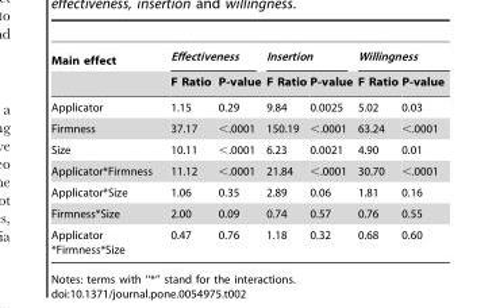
<table><thead><tr><td rowspan="2">Main effect</td><td colspan="2">Effectiveness</td><td colspan="2">Insertion</td><td colspan="2">Willingness</td></tr><tr><td>F Ratio</td><td>P-value</td><td>F Ratio</td><td>P-value</td><td>F Ratio</td><td>P-value</td></tr></thead><tbody><tr><td>Applicator</td><td>1.15</td><td>0.29</td><td>9.84</td><td>0.0025</td><td>5.02</td><td>0.03</td></tr><tr><td>Firmness</td><td>37.17</td><td>&lt;.0001</td><td>150.19</td><td>&lt;.0001</td><td>63.24</td><td>&lt;.0001</td></tr><tr><td>Size</td><td>10.11</td><td>&lt;.0001</td><td>6.23</td><td>0.0021</td><td>4.90</td><td>0.01</td></tr><tr><td>Applicator*Firmness</td><td>11.12</td><td>&lt;.0001</td><td>21.84</td><td>&lt;.0001</td><td>30.70</td><td>&lt;.0001</td></tr><tr><td>Applicator*Size</td><td>1.06</td><td>0.35</td><td>2.89</td><td>0.06</td><td>1.81</td><td>0.16</td></tr><tr><td>Firmness*Size</td><td>2.00</td><td>0.09</td><td>0.74</td><td>0.57</td><td>0.76</td><td>0.55</td></tr><tr><td>Applicator *Firmness*Size</td><td>0.47</td><td>0.76</td><td>1.18</td><td>0.32</td><td>0.68</td><td>0.60</td></tr></tbody></table>